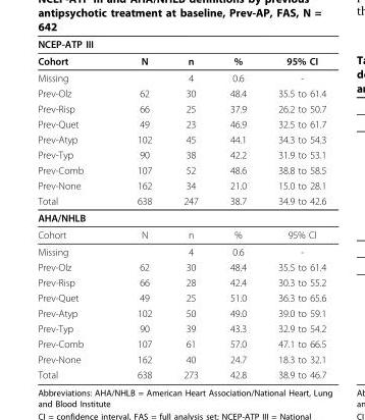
<table><thead><tr><td>NCEP-ATP III</td><td></td><td></td><td></td><td></td></tr></thead><tbody><tr><td>Cohort</td><td>N</td><td>n</td><td>%</td><td>95% CI</td></tr><tr><td>Missing</td><td></td><td>4</td><td>0.6</td><td>-</td></tr><tr><td>Prev-Olz</td><td>62</td><td>30</td><td>48.4</td><td>35.5 to 61.4</td></tr><tr><td>Prev-Risp</td><td>66</td><td>25</td><td>37.9</td><td>26.2 to 50.7</td></tr><tr><td>Prev-Quet</td><td>49</td><td>23</td><td>46.9</td><td>32.5 to 61.7</td></tr><tr><td>Prev-Atyp</td><td>102</td><td>45</td><td>44.1</td><td>34.3 to 54.3</td></tr><tr><td>Prev-Typ</td><td>90</td><td>38</td><td>42.2</td><td>31.9 to 53.1</td></tr><tr><td>Prev-Comb</td><td>107</td><td>52</td><td>48.6</td><td>38.8 to 58.5</td></tr><tr><td>Prev-None</td><td>162</td><td>34</td><td>21.0</td><td>15.0 to 28.1</td></tr><tr><td>Total</td><td>638</td><td>247</td><td>38.7</td><td>34.9 to 42.6</td></tr><tr><td colspan="5">AHA/NHLB</td></tr><tr><td>Cohort</td><td>N</td><td>n</td><td>%</td><td>95% CI</td></tr><tr><td>Missing</td><td></td><td>4</td><td>0.6</td><td>-</td></tr><tr><td>Prev-Olz</td><td>62</td><td>30</td><td>48.4</td><td>35.5 to 61.4</td></tr><tr><td>Prev-Risp</td><td>66</td><td>28</td><td>42.4</td><td>30.3 to 55.2</td></tr><tr><td>Prev-Quet</td><td>49</td><td>25</td><td>51.0</td><td>36.3 to 65.6</td></tr><tr><td>Prev-Atyp</td><td>102</td><td>50</td><td>49.0</td><td>39.0 to 59.1</td></tr><tr><td>Prev-Typ</td><td>90</td><td>39</td><td>43.3</td><td>32.9 to 54.2</td></tr><tr><td>Prev-Comb</td><td>107</td><td>61</td><td>57.0</td><td>47.1 to 66.5</td></tr><tr><td>Prev-None</td><td>162</td><td>40</td><td>24.7</td><td>18.3 to 32.1</td></tr><tr><td>Total</td><td>638</td><td>273</td><td>42.8</td><td>38.9 to 46.7</td></tr></tbody></table>